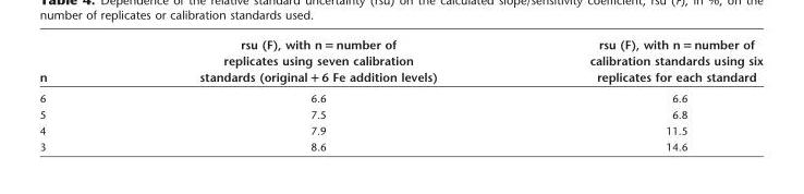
<table><thead><tr><td>n</td><td>rsu (F), with n = number of replicates using seven calibration standards (original + 6 Fe addition levels)</td><td>rsu (F), with n = number of calibration standards using six replicates for each standard</td></tr></thead><tbody><tr><td>6</td><td>6.6</td><td>6.6</td></tr><tr><td>5</td><td>7.5</td><td>6.8</td></tr><tr><td>4</td><td>7.9</td><td>11.5</td></tr><tr><td>3</td><td>8.6</td><td>14.6</td></tr></tbody></table>